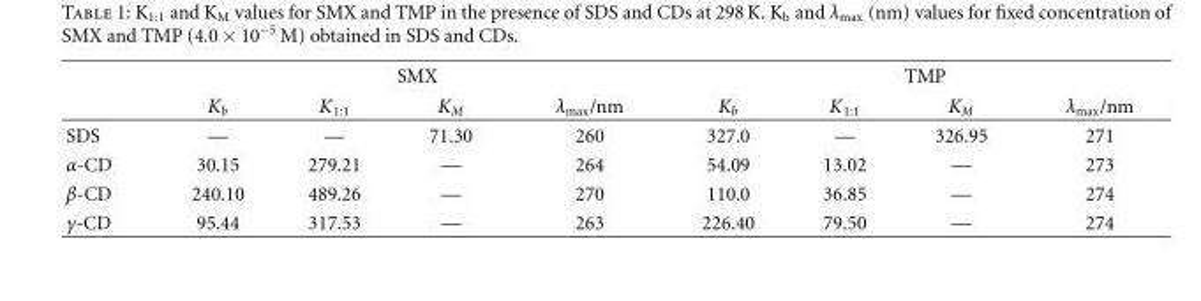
<table><thead><tr><td rowspan="2"></td><td colspan="4">SMX</td><td colspan="4">TMP</td></tr><tr><td>K<sub>b</sub></td><td>K<sub>1:1</sub></td><td>K<sub>M</sub></td><td>λ<sub>max</sub>/nm</td><td>K<sub>b</sub></td><td>K<sub>1:1</sub></td><td>K<sub>M</sub></td><td>λ<sub>max</sub>/nm</td></tr></thead><tbody><tr><td>SDS</td><td>—</td><td>—</td><td>71.30</td><td>260</td><td>327.0</td><td>—</td><td>326.95</td><td>271</td></tr><tr><td>α-CD</td><td>30.15</td><td>279.21</td><td>—</td><td>264</td><td>54.09</td><td>13.02</td><td>—</td><td>273</td></tr><tr><td>β-CD</td><td>240.10</td><td>489.26</td><td>—</td><td>270</td><td>110.0</td><td>36.85</td><td>—</td><td>274</td></tr><tr><td>γ-CD</td><td>95.44</td><td>317.53</td><td>—</td><td>263</td><td>226.40</td><td>79.50</td><td>—</td><td>274</td></tr></tbody></table>